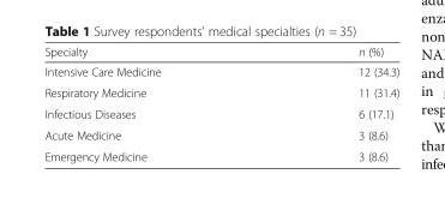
<table><thead><tr><td>Specialty</td><td>n (%)</td></tr></thead><tbody><tr><td>Intensive Care Medicine</td><td>12 (34.3)</td></tr><tr><td>Respiratory Medicine</td><td>11 (31.4)</td></tr><tr><td>Infectious Diseases</td><td>6 (17.1)</td></tr><tr><td>Acute Medicine</td><td>3 (8.6)</td></tr><tr><td>Emergency Medicine</td><td>3 (8.6)</td></tr></tbody></table>